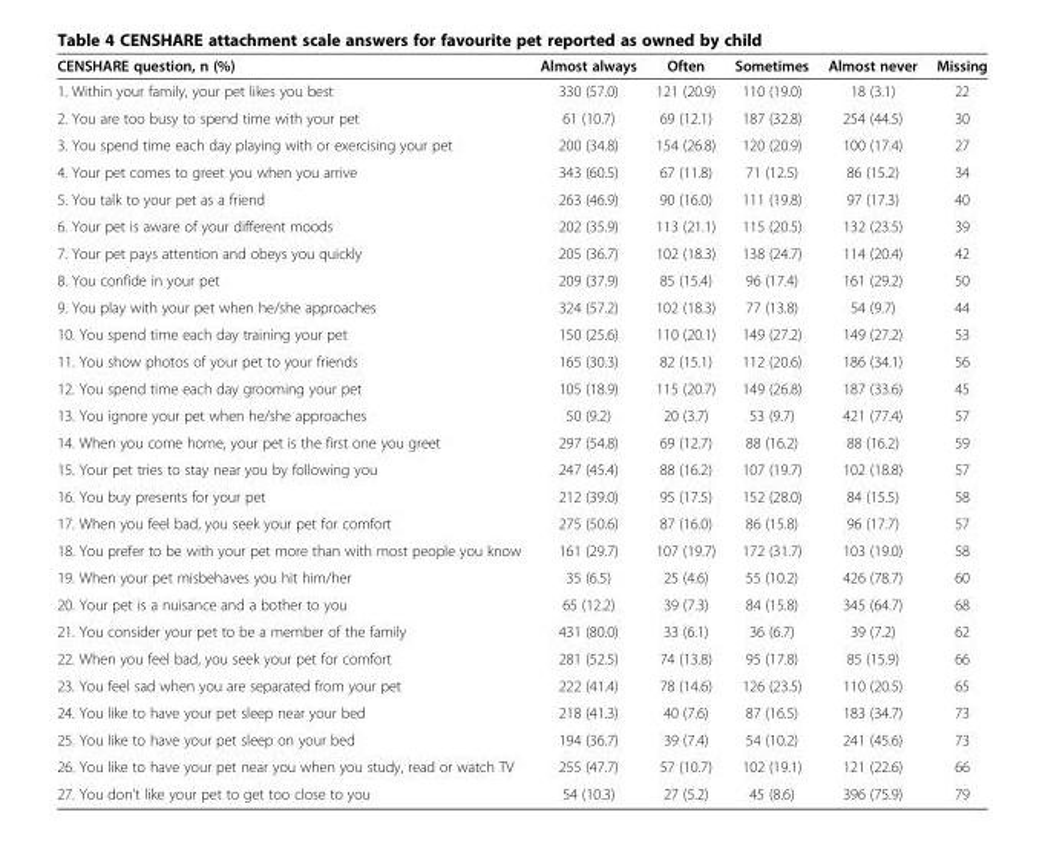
<table><thead><tr><td>CENSHARE question, n (%)</td><td>Almost always</td><td>Often</td><td>Sometimes</td><td>Almost never</td><td>Missing</td></tr></thead><tbody><tr><td>1. Within your family, your pet likes you best</td><td>330 (57.0)</td><td>121 (20.9)</td><td>110 (19.0)</td><td>18 (3.1)</td><td>22</td></tr><tr><td>2. You are too busy to spend time with your pet</td><td>61 (10.7)</td><td>69 (12.1)</td><td>187 (32.8)</td><td>254 (44.5)</td><td>30</td></tr><tr><td>3. You spend time each day playing with or exercising your pet</td><td>200 (34.8)</td><td>154 (26.8)</td><td>120 (20.9)</td><td>100 (17.4)</td><td>27</td></tr><tr><td>4. Your pet comes to greet you when you arrive</td><td>343 (60.5)</td><td>67 (11.8)</td><td>71 (12.5)</td><td>86 (15.2)</td><td>34</td></tr><tr><td>5. You talk to your pet as a friend</td><td>263 (46.9)</td><td>90 (16.0)</td><td>111 (19.8)</td><td>97 (17.3)</td><td>40</td></tr><tr><td>6. Your pet is aware of your different moods</td><td>202 (35.9)</td><td>113 (21.1)</td><td>115 (20.5)</td><td>132 (23.5)</td><td>39</td></tr><tr><td>7. Your pet pays attention and obeys you quickly</td><td>205 (36.7)</td><td>102 (18.3)</td><td>138 (24.7)</td><td>114 (20.4)</td><td>42</td></tr><tr><td>8. You confide in your pet</td><td>209 (37.9)</td><td>85 (15.4)</td><td>96 (17.4)</td><td>161 (29.2)</td><td>50</td></tr><tr><td>9. You play with your pet when he/she approaches</td><td>324 (57.2)</td><td>102 (18.3)</td><td>77 (13.8)</td><td>54 (9.7)</td><td>44</td></tr><tr><td>10. You spend time each day training your pet</td><td>150 (25.6)</td><td>110 (20.1)</td><td>149 (27.2)</td><td>149 (27.2)</td><td>53</td></tr><tr><td>11. You show photos of your pet to your friends</td><td>165 (30.3)</td><td>82 (15.1)</td><td>112 (20.6)</td><td>186 (34.1)</td><td>56</td></tr><tr><td>12. You spend time each day grooming your pet</td><td>105 (18.9)</td><td>115 (20.7)</td><td>149 (26.8)</td><td>187 (33.6)</td><td>45</td></tr><tr><td>13. You ignore your pet when he/she approaches</td><td>50 (9.2)</td><td>20 (3.7)</td><td>53 (9.7)</td><td>421 (77.4)</td><td>57</td></tr><tr><td>14. When you come home, your pet is the first one you greet</td><td>297 (54.8)</td><td>69 (12.7)</td><td>88 (16.2)</td><td>88 (16.2)</td><td>59</td></tr><tr><td>15. Your pet tries to stay near you by following you</td><td>247 (45.4)</td><td>88 (16.2)</td><td>107 (19.7)</td><td>102 (18.8)</td><td>57</td></tr><tr><td>16. You buy presents for your pet</td><td>212 (39.0)</td><td>95 (17.5)</td><td>152 (28.0)</td><td>84 (15.5)</td><td>58</td></tr><tr><td>17. When you feel bad, you seek your pet for comfort</td><td>275 (50.6)</td><td>87 (16.0)</td><td>86 (15.8)</td><td>96 (17.7)</td><td>57</td></tr><tr><td>18. You prefer to be with your pet more than with most people you know</td><td>161 (29.7)</td><td>107 (19.7)</td><td>172 (31.7)</td><td>103 (19.0)</td><td>58</td></tr><tr><td>19. When your pet misbehaves you hit him/her</td><td>35 (6.5)</td><td>25 (4.6)</td><td>55 (10.2)</td><td>426 (78.7)</td><td>60</td></tr><tr><td>20. Your pet is a nuisance and a bother to you</td><td>65 (12.2)</td><td>39 (7.3)</td><td>84 (15.8)</td><td>345 (64.7)</td><td>68</td></tr><tr><td>21. You consider your pet to be a member of the family</td><td>431 (80.0)</td><td>33 (6.1)</td><td>36 (6.7)</td><td>39 (7.2)</td><td>62</td></tr><tr><td>22. When you feel bad, you seek your pet for comfort</td><td>281 (52.5)</td><td>74 (13.8)</td><td>95 (17.8)</td><td>85 (15.9)</td><td>66</td></tr><tr><td>23. You feel sad when you are separated from your pet</td><td>222 (41.4)</td><td>78 (14.6)</td><td>126 (23.5)</td><td>110 (20.5)</td><td>65</td></tr><tr><td>24. You like to have your pet sleep near your bed</td><td>218 (41.3)</td><td>40 (7.6)</td><td>87 (16.5)</td><td>183 (34.7)</td><td>73</td></tr><tr><td>25. You like to have your pet sleep on your bed</td><td>194 (36.7)</td><td>39 (7.4)</td><td>54 (10.2)</td><td>241 (45.6)</td><td>73</td></tr><tr><td>26. You like to have your pet near you when you study, read or watch TV</td><td>255 (47.7)</td><td>57 (10.7)</td><td>102 (19.1)</td><td>121 (22.6)</td><td>66</td></tr><tr><td>27. You don’t like your pet to get too close to you</td><td>54 (10.3)</td><td>27 (5.2)</td><td>45 (8.6)</td><td>396 (75.9)</td><td>79</td></tr></tbody></table>